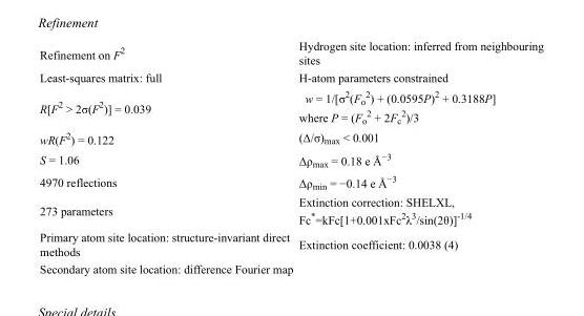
<table><tbody><tr><td>Refinement on F<sup>2</sup></td><td>Hydrogen site location: inferred from neighbouring sites</td></tr><tr><td>Least-squares matrix: full</td><td>H-atom parameters constrained</td></tr><tr><td>R[F<sup>2</sup> &gt; 2σ(F<sup>2</sup>)] = 0.039</td><td>w = 1/[σ<sup>2</sup>(F<sub>o</sub> <sup>2</sup>) + (0.0595P)<sup>2</sup> + 0.3188P] where P = (F<sub>o</sub> <sup>2</sup> + 2F<sub>c</sub> <sup>2</sup>)/3</td></tr><tr><td>wR(F<sup>2</sup>) = 0.122</td><td>(Δ/σ)<sub>max</sub> &lt; 0.001</td></tr><tr><td>S = 1.06</td><td>Δρ<sub>max</sub> = 0.18 e Å<sup>−3</sup></td></tr><tr><td>4970 reflections</td><td>Δρ<sub>min</sub> = −0.14 e Å<sup>−3</sup></td></tr><tr><td>273 parameters</td><td>Extinction correction: SHELXL, Fc*=kFc[1+0.001xFc<sup>2</sup>λ<sup>3</sup>/sin(2θ)]<sup>-1/4</sup></td></tr><tr><td>Primary atom site location: structure-invariant direct methods</td><td>Extinction coefficient: 0.0038 (4)</td></tr><tr><td>Secondary atom site location: difference Fourier map</td><td></td></tr></tbody></table>